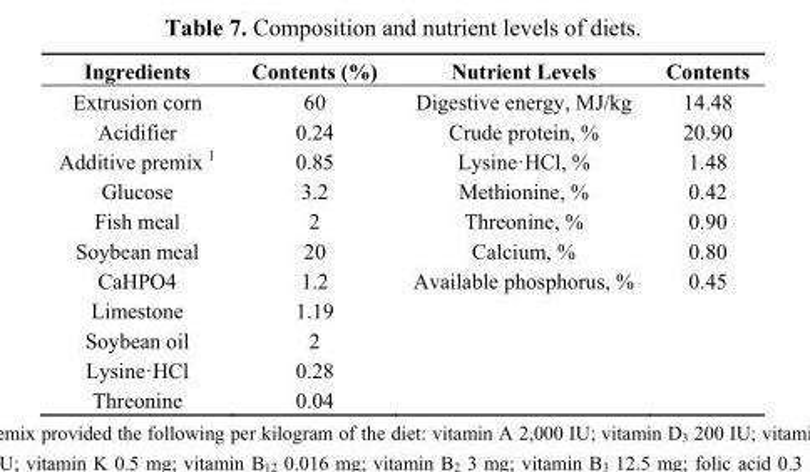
<table><thead><tr><td>Ingredients</td><td>Contents (%)</td><td>Nutrient Levels</td><td>Contents</td></tr></thead><tbody><tr><td>Extrusion corn</td><td>60</td><td>Digestive energy, MJ/kg</td><td>14.48</td></tr><tr><td>Acidifier</td><td>0.24</td><td>Crude protein, %</td><td>20.90</td></tr><tr><td>Additive premix <sup>1</sup></td><td>0.85</td><td>Lysine·HCl, %</td><td>1.48</td></tr><tr><td>Glucose</td><td>3.2</td><td>Methionine, %</td><td>0.42</td></tr><tr><td>Fish meal</td><td>2</td><td>Threonine, %</td><td>0.90</td></tr><tr><td>Soybean meal</td><td>20</td><td>Calcium, %</td><td>0.80</td></tr><tr><td>CaHPO4</td><td>1.2</td><td>Available phosphorus, %</td><td>0.45</td></tr><tr><td>Limestone</td><td>1.19</td><td></td><td></td></tr><tr><td>Soybean oil</td><td>2</td><td></td><td></td></tr><tr><td>Lysine·HCl</td><td>0.28</td><td></td><td></td></tr><tr><td>Threonine</td><td>0.04</td><td></td><td></td></tr></tbody></table>